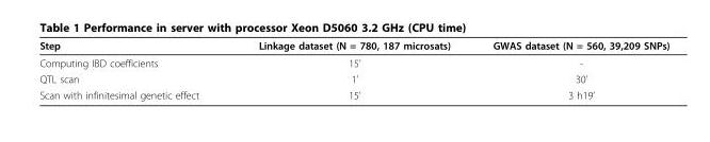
<table><thead><tr><td>Step</td><td>Linkage dataset (N = 780, 187 microsats)</td><td>GWAS dataset (N = 560, 39,209 SNPs)</td></tr></thead><tbody><tr><td>Computing IBD coefficients</td><td>15’</td><td>-</td></tr><tr><td>QTL scan</td><td>1’</td><td>30’</td></tr><tr><td>Scan with infinitesimal genetic effect</td><td>15’</td><td>3 h19’</td></tr></tbody></table>